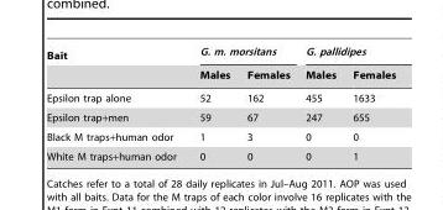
<table><thead><tr><td rowspan="2">Bait</td><td colspan="2">G. m. morsitans</td><td colspan="2">G. pallidipes</td></tr><tr><td>Males</td><td>Females</td><td>Males</td><td>Females</td></tr></thead><tbody><tr><td>Epsilon trap alone</td><td>52</td><td>162</td><td>455</td><td>1633</td></tr><tr><td>Epsilon trap+men</td><td>59</td><td>67</td><td>247</td><td>655</td></tr><tr><td>Black M traps+human odor</td><td>1</td><td>3</td><td>0</td><td>0</td></tr><tr><td>White M traps+human odor</td><td>0</td><td>0</td><td>0</td><td>1</td></tr></tbody></table>